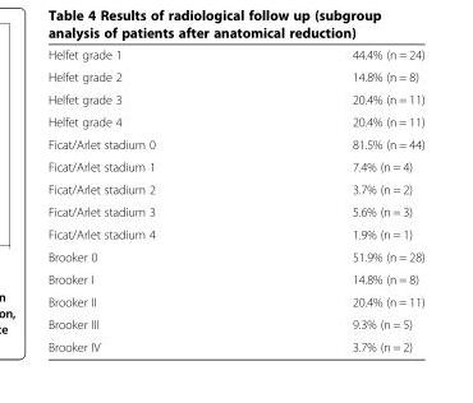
<table><tbody><tr><td>Helfet grade 1</td><td>44.4% (n = 24)</td></tr><tr><td>Helfet grade 2</td><td>14.8% (n = 8)</td></tr><tr><td>Helfet grade 3</td><td>20.4% (n = 11)</td></tr><tr><td>Helfet grade 4</td><td>20.4% (n = 11)</td></tr><tr><td>Ficat/Arlet stadium 0</td><td>81.5% (n = 44)</td></tr><tr><td>Ficat/Arlet stadium 1</td><td>7.4% (n = 4)</td></tr><tr><td>Ficat/Arlet stadium 2</td><td>3.7% (n = 2)</td></tr><tr><td>Ficat/Arlet stadium 3</td><td>5.6% (n = 3)</td></tr><tr><td>Ficat/Arlet stadium 4</td><td>1.9% (n = 1)</td></tr><tr><td>Brooker 0</td><td>51.9% (n = 28)</td></tr><tr><td>Brooker I</td><td>14.8% (n = 8)</td></tr><tr><td>Brooker II</td><td>20.4% (n = 11)</td></tr><tr><td>Brooker III</td><td>9.3% (n = 5)</td></tr><tr><td>Brooker IV</td><td>3.7% (n = 2)</td></tr></tbody></table>